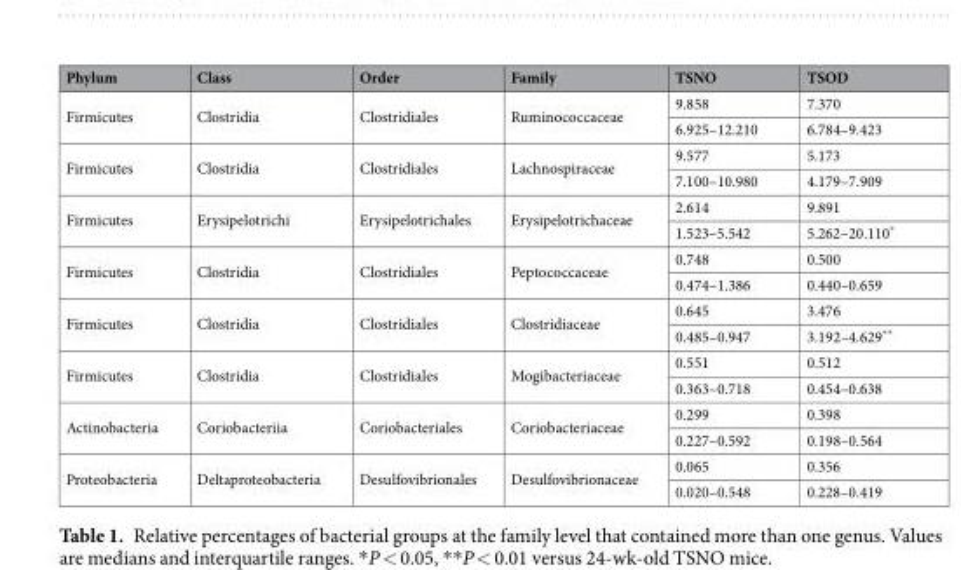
<table><thead><tr><td>Phylum</td><td>Class</td><td>Order</td><td>Family</td><td>TSNO</td><td>TSOD</td></tr></thead><tbody><tr><td rowspan="2">Firmicutes</td><td rowspan="2">Clostridia</td><td rowspan="2">Clostridiales</td><td rowspan="2">Ruminococcaceae</td><td>9.858</td><td>7.370</td></tr><tr><td>6.925–12.210</td><td>6.784–9.423</td></tr><tr><td rowspan="2">Firmicutes</td><td rowspan="2">Clostridia</td><td rowspan="2">Clostridiales</td><td rowspan="2">Lachnospiraceae</td><td>9.577</td><td>5.173</td></tr><tr><td>7.100–10.980</td><td>4.179–7.909</td></tr><tr><td rowspan="2">Firmicutes</td><td rowspan="2">Erysipelotrichi</td><td rowspan="2">Erysipelotrichales</td><td rowspan="2">Erysipelotrichaceae</td><td>2.614</td><td>9.891</td></tr><tr><td>1.523–5.542</td><td>5.262–20.110*</td></tr><tr><td rowspan="2">Firmicutes</td><td rowspan="2">Clostridia</td><td rowspan="2">Clostridiales</td><td rowspan="2">Peptococcaceae</td><td>0.748</td><td>0.500</td></tr><tr><td>0.474–1.386</td><td>0.440–0.659</td></tr><tr><td rowspan="2">Firmicutes</td><td rowspan="2">Clostridia</td><td rowspan="2">Clostridiales</td><td rowspan="2">Clostridiaceae</td><td>0.645</td><td>3.476</td></tr><tr><td>0.485–0.947</td><td>3.192–4.629**</td></tr><tr><td rowspan="2">Firmicutes</td><td rowspan="2">Clostridia</td><td rowspan="2">Clostridiales</td><td rowspan="2">Mogibacteriaceae</td><td>0.551</td><td>0.512</td></tr><tr><td>0.363–0.718</td><td>0.454–0.638</td></tr><tr><td rowspan="2">Actinobacteria</td><td rowspan="2">Coriobacteriia</td><td rowspan="2">Coriobacteriales</td><td rowspan="2">Coriobacteriaceae</td><td>0.299</td><td>0.398</td></tr><tr><td>0.227–0.592</td><td>0.198–0.564</td></tr><tr><td rowspan="2">Proteobacteria</td><td rowspan="2">Deltaproteobacteria</td><td rowspan="2">Desulfovibrionales</td><td rowspan="2">Desulfovibrionaceae</td><td>0.065</td><td>0.356</td></tr><tr><td>0.020–0.548</td><td>0.228–0.419</td></tr></tbody></table>